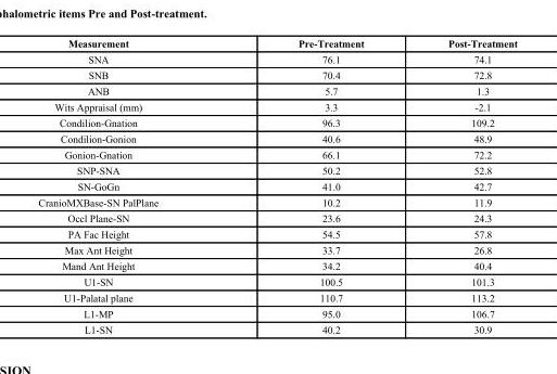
<table><thead><tr><td>Measurement</td><td>Pre-Treatment</td><td>Post-Treatment</td></tr></thead><tbody><tr><td>SNA</td><td>76.1</td><td>74.1</td></tr><tr><td>SNB</td><td>70.4</td><td>72.8</td></tr><tr><td>ANB</td><td>5.7</td><td>1.3</td></tr><tr><td>Wits Appraisal (mm)</td><td>3.3</td><td>-2.1</td></tr><tr><td>Condilion-Gnation</td><td>96.3</td><td>109.2</td></tr><tr><td>Condilion-Gonion</td><td>40.6</td><td>48.9</td></tr><tr><td>Gonion-Gnation</td><td>66.1</td><td>72.2</td></tr><tr><td>SNP-SNA</td><td>50.2</td><td>52.8</td></tr><tr><td>SN-GoGn</td><td>41.0</td><td>42.7</td></tr><tr><td>CranioMXBase-SN PalPlane</td><td>10.2</td><td>11.9</td></tr><tr><td>Occl Plane-SN</td><td>23.6</td><td>24.3</td></tr><tr><td>PA Fac Height</td><td>54.5</td><td>57.8</td></tr><tr><td>Max Ant Height</td><td>33.7</td><td>26.8</td></tr><tr><td>Mand Ant Height</td><td>34.2</td><td>40.4</td></tr><tr><td>U1-SN</td><td>100.5</td><td>101.3</td></tr><tr><td>U1-Palatal plane</td><td>110.7</td><td>113.2</td></tr><tr><td>L1-MP</td><td>95.0</td><td>106.7</td></tr><tr><td>L1-SN</td><td>40.2</td><td>30.9</td></tr></tbody></table>